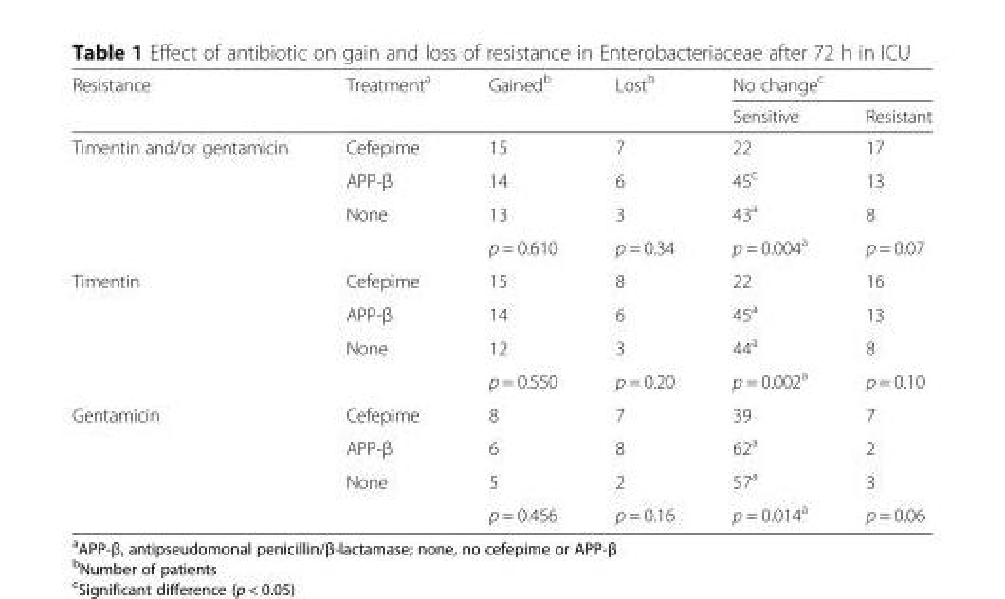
<table><thead><tr><td rowspan="2">Resistance</td><td rowspan="2">Treatment<sup>a</sup></td><td rowspan="2">Gained<sup>b</sup></td><td rowspan="2">Lost<sup>b</sup></td><td colspan="2">No change<sup>c</sup></td></tr><tr><td>Sensitive</td><td>Resistant</td></tr></thead><tbody><tr><td rowspan="4">Timentin and/or gentamicin</td><td>Cefepime</td><td>15</td><td>7</td><td>22</td><td>17</td></tr><tr><td>APP-β</td><td>14</td><td>6</td><td>45<sup>c</sup></td><td>13</td></tr><tr><td>None</td><td>13</td><td>3</td><td>43<sup>a</sup></td><td>8</td></tr><tr><td></td><td>p = 0.610</td><td>p = 0.34</td><td>p = 0.004<sup>a</sup></td><td>p = 0.07</td></tr><tr><td rowspan="4">Timentin</td><td>Cefepime</td><td>15</td><td>8</td><td>22</td><td>16</td></tr><tr><td>APP-β</td><td>14</td><td>6</td><td>45<sup>a</sup></td><td>13</td></tr><tr><td>None</td><td>12</td><td>3</td><td>44<sup>a</sup></td><td>8</td></tr><tr><td></td><td>p = 0.550</td><td>p = 0.20</td><td>p = 0.002<sup>a</sup></td><td>p = 0.10</td></tr><tr><td rowspan="4">Gentamicin</td><td>Cefepime</td><td>8</td><td>7</td><td>39</td><td>7</td></tr><tr><td>APP-β</td><td>6</td><td>8</td><td>62<sup>a</sup></td><td>2</td></tr><tr><td>None</td><td>5</td><td>2</td><td>57<sup>a</sup></td><td>3</td></tr><tr><td></td><td>p = 0.456</td><td>p = 0.16</td><td>p = 0.014<sup>a</sup></td><td>p = 0.06</td></tr></tbody></table>